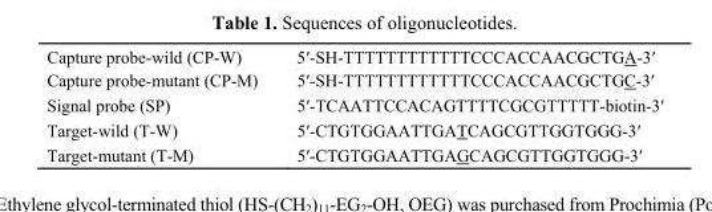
<table><tbody><tr><td>Capture probe-wild (CP-W)</td><td>5′-SH-TTTTTTTTTTTTCCCACCAACGCTGA-3′</td></tr><tr><td>Capture probe-mutant (CP-M)</td><td>5′-SH-TTTTTTTTTTTTCCCACCAACGCTGC-3′</td></tr><tr><td>Signal probe (SP)</td><td>5′-TCAATTCCACAGTTTTCGCGTTTTT-biotin-3′</td></tr><tr><td>Target-wild (T-W)</td><td>5′-CTGTGGAATTGATCAGCGTTGGTGGG-3′</td></tr><tr><td>Target-mutant (T-M)</td><td>5′-CTGTGGAATTGAGCAGCGTTGGTGGG-3′</td></tr></tbody></table>